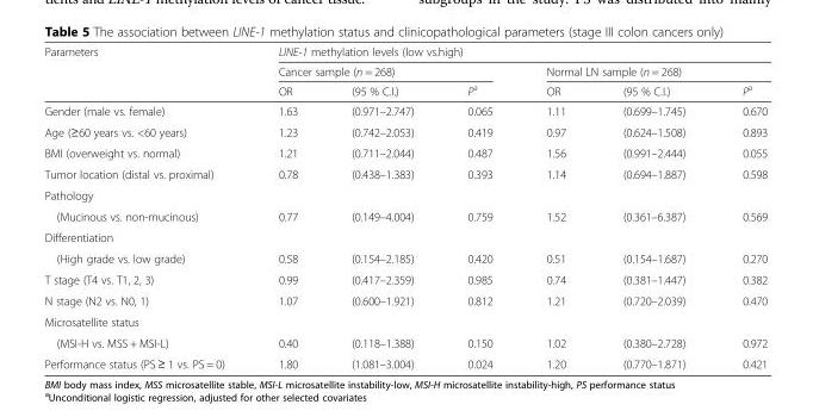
<table><thead><tr><td rowspan="3">Parameters</td><td colspan="6">LINE-1 methylation levels (low vs.high)</td></tr><tr><td colspan="3">Cancer sample (n = 268)</td><td colspan="3">Normal LN sample (n = 268)</td></tr><tr><td>OR</td><td>(95 % C.I.)</td><td>P<sup>a</sup></td><td>OR</td><td>(95 % C.I.)</td><td>P<sup>a</sup></td></tr></thead><tbody><tr><td>Gender (male vs. female)</td><td>1.63</td><td>(0.971–2.747)</td><td>0.065</td><td>1.11</td><td>(0.699–1.745)</td><td>0.670</td></tr><tr><td>Age (≥60 years vs. &lt;60 years)</td><td>1.23</td><td>(0.742–2.053)</td><td>0.419</td><td>0.97</td><td>(0.624–1.508)</td><td>0.893</td></tr><tr><td>BMI (overweight vs. normal)</td><td>1.21</td><td>(0.711–2.044)</td><td>0.487</td><td>1.56</td><td>(0.991–2.444)</td><td>0.055</td></tr><tr><td>Tumor location (distal vs. proximal)</td><td>0.78</td><td>(0.438–1.383)</td><td>0.393</td><td>1.14</td><td>(0.694–1.887)</td><td>0.598</td></tr><tr><td colspan="7">Pathology</td></tr><tr><td>(Mucinous vs. non-mucinous)</td><td>0.77</td><td>(0.149–4.004)</td><td>0.759</td><td>1.52</td><td>(0.361–6.387)</td><td>0.569</td></tr><tr><td colspan="7">Differentiation</td></tr><tr><td>(High grade vs. low grade)</td><td>0.58</td><td>(0.154–2.185)</td><td>0.420</td><td>0.51</td><td>(0.154–1.687)</td><td>0.270</td></tr><tr><td>T stage (T4 vs. T1, 2, 3)</td><td>0.99</td><td>(0.417–2.359)</td><td>0.985</td><td>0.74</td><td>(0.381–1.447)</td><td>0.382</td></tr><tr><td>N stage (N2 vs. N0, 1)</td><td>1.07</td><td>(0.600–1.921)</td><td>0.812</td><td>1.21</td><td>(0.720–2.039)</td><td>0.470</td></tr><tr><td colspan="7">Microsatellite status</td></tr><tr><td>(MSI-H vs. MSS + MSI-L)</td><td>0.40</td><td>(0.118–1.388)</td><td>0.150</td><td>1.02</td><td>(0.380–2.728)</td><td>0.972</td></tr><tr><td>Performance status (PS ≥ 1 vs. PS = 0)</td><td>1.80</td><td>(1.081–3.004)</td><td>0.024</td><td>1.20</td><td>(0.770–1.871)</td><td>0.421</td></tr></tbody></table>